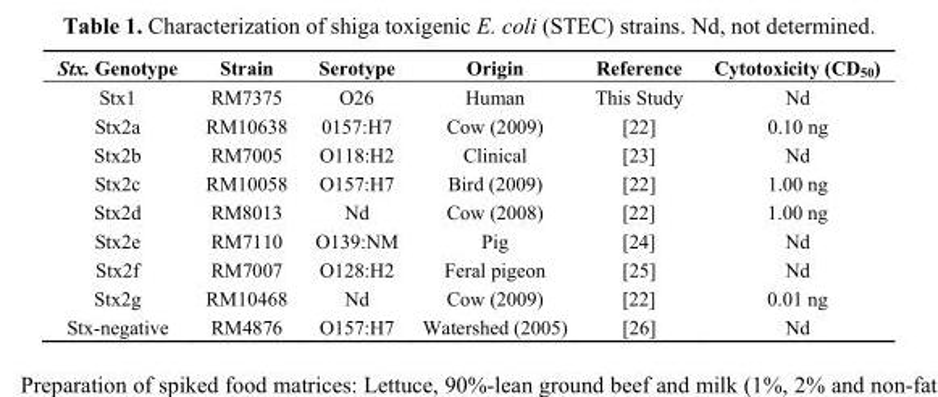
<table><thead><tr><td>Stx. Genotype</td><td>Strain</td><td>Serotype</td><td>Origin</td><td>Reference</td><td>Cytotoxicity (CD<sub>50</sub>)</td></tr></thead><tbody><tr><td>Stx1</td><td>RM7375</td><td>O26</td><td>Human</td><td>This Study</td><td>Nd</td></tr><tr><td>Stx2a</td><td>RM10638</td><td>0157:H7</td><td>Cow (2009)</td><td>[22]</td><td>0.10 ng</td></tr><tr><td>Stx2b</td><td>RM7005</td><td>O118:H2</td><td>Clinical</td><td>[23]</td><td>Nd</td></tr><tr><td>Stx2c</td><td>RM10058</td><td>O157:H7</td><td>Bird (2009)</td><td>[22]</td><td>1.00 ng</td></tr><tr><td>Stx2d</td><td>RM8013</td><td>Nd</td><td>Cow (2008)</td><td>[22]</td><td>1.00 ng</td></tr><tr><td>Stx2e</td><td>RM7110</td><td>O139:NM</td><td>Pig</td><td>[24]</td><td>Nd</td></tr><tr><td>Stx2f</td><td>RM7007</td><td>O128:H2</td><td>Feral pigeon</td><td>[25]</td><td>Nd</td></tr><tr><td>Stx2g</td><td>RM10468</td><td>Nd</td><td>Cow (2009)</td><td>[22]</td><td>0.01 ng</td></tr><tr><td>Stx-negative</td><td>RM4876</td><td>O157:H7</td><td>Watershed (2005)</td><td>[26]</td><td>Nd</td></tr></tbody></table>